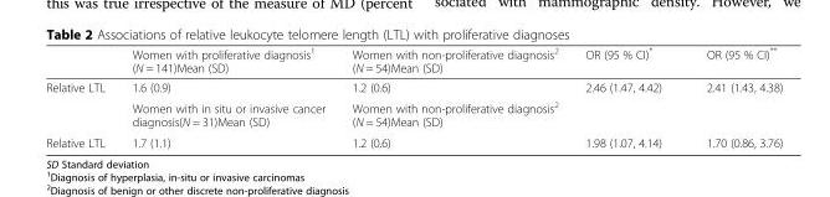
<table><thead><tr><td></td><td>Women with proliferative diagnosis<sup>1</sup> (N = 141)Mean (SD)</td><td>Women with non-proliferative diagnosis<sup>2</sup> (N = 54)Mean (SD)</td><td>OR (95 % CI)*</td><td>OR (95 % CI)**</td></tr></thead><tbody><tr><td rowspan="2">Relative LTL</td><td>1.6 (0.9)</td><td>1.2 (0.6)</td><td>2.46 (1.47, 4.42)</td><td>2.41 (1.43, 4.38)</td></tr><tr><td>Women with in situ or invasive cancer diagnosis(N = 31)Mean (SD)</td><td>Women with non-proliferative diagnosis<sup>2</sup> (N = 54)Mean (SD)</td><td></td><td></td></tr><tr><td>Relative LTL</td><td>1.7 (1.1)</td><td>1.2 (0.6)</td><td>1.98 (1.07, 4.14)</td><td>1.70 (0.86, 3.76)</td></tr></tbody></table>